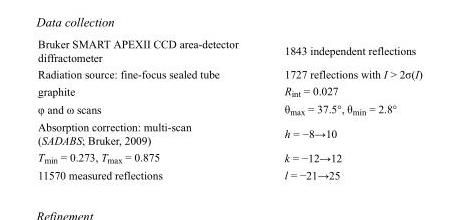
<table><tbody><tr><td>Bruker SMART APEXII CCD area-detector diffractometer</td><td>1843 independent reflections</td></tr><tr><td>Radiation source: fine-focus sealed tube</td><td>1727 reflections with I &gt; 2σ(I)</td></tr><tr><td>graphite</td><td>R<sub>int</sub> = 0.027</td></tr><tr><td>φ and ω scans</td><td>θ<sub>max</sub> = 37.5°, θ<sub>min</sub> = 2.8°</td></tr><tr><td>Absorption correction: multi-scan (SADABS; Bruker, 2009)</td><td>h = −8→10</td></tr><tr><td>T<sub>min</sub> = 0.273, T<sub>max</sub> = 0.875</td><td>k = −12→12</td></tr><tr><td>11570 measured reflections</td><td>l = −21→25</td></tr></tbody></table>